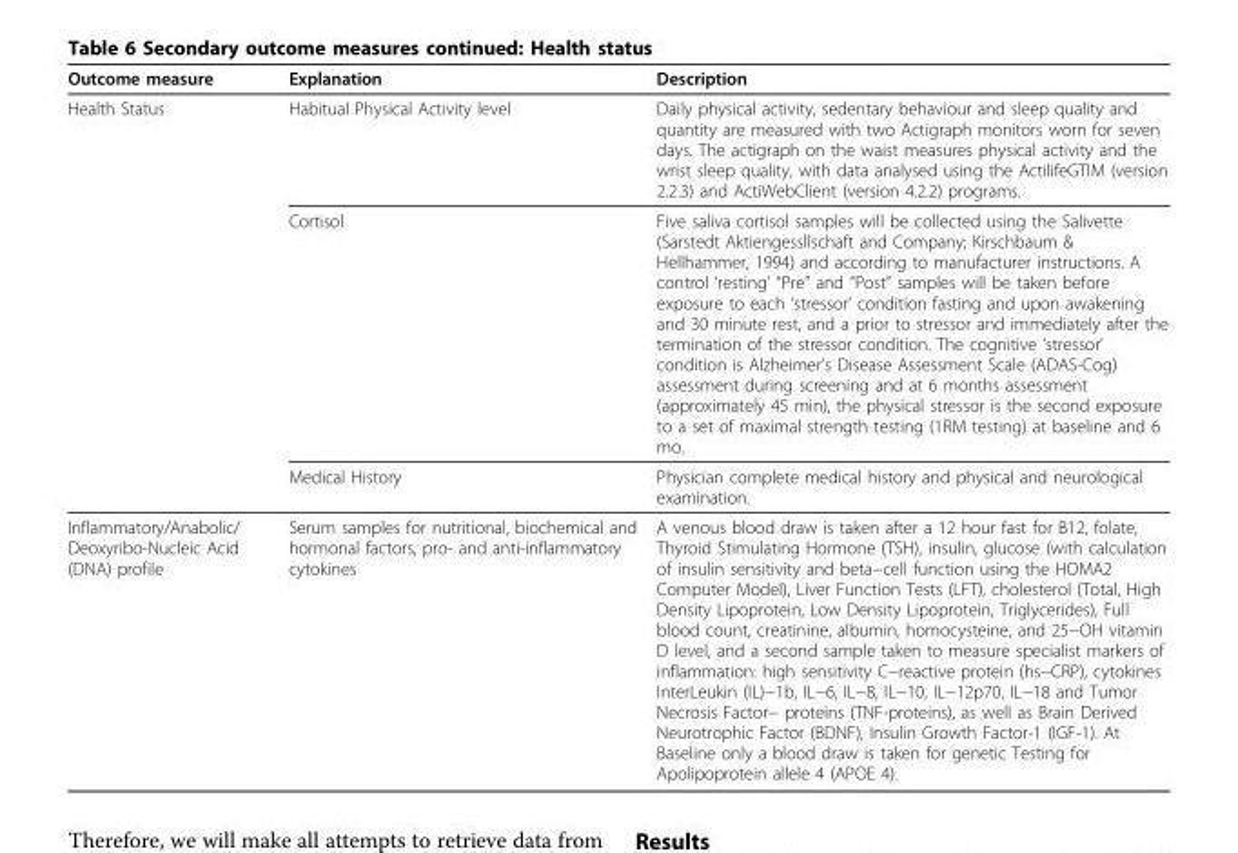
<table><thead><tr><td>Outcome measure</td><td>Explanation</td><td>Description</td></tr></thead><tbody><tr><td rowspan="3">Health Status</td><td>Habitual Physical Activity level</td><td>Daily physical activity, sedentary behaviour and sleep quality and quantity are measured with two Actigraph monitors worn for seven days. The actigraph on the waist measures physical activity and the wrist sleep quality, with data analysed using the ActilifeGTIM (version 2.2.3) and ActiWebClient (version 4.2.2) programs.</td></tr><tr><td>Cortisol</td><td>Five saliva cortisol samples will be collected using the Salivette (Sarstedt Aktiengessllschaft and Company; Kirschbaum &amp; Hellhammer, 1994) and according to manufacturer instructions. A control ‘resting’ “Pre” and “Post” samples will be taken before exposure to each ‘stressor’ condition fasting and upon awakening and 30 minute rest, and a prior to stressor and immediately after the termination of the stressor condition. The cognitive ‘stressor’ condition is Alzheimer’s Disease Assessment Scale (ADAS-Cog) assessment during screening and at 6 months assessment (approximately 45 min), the physical stressor is the second exposure to a set of maximal strength testing (1RM testing) at baseline and 6 mo.</td></tr><tr><td>Medical History</td><td>Physician complete medical history and physical and neurological examination.</td></tr><tr><td>Inflammatory/Anabolic/ Deoxyribo-Nucleic Acid (DNA) profile</td><td>Serum samples for nutritional, biochemical and hormonal factors, pro- and anti-inflammatory cytokines</td><td>A venous blood draw is taken after a 12 hour fast for B12, folate, Thyroid Stimulating Hormone (TSH), insulin, glucose (with calculation of insulin sensitivity and beta−cell function using the HOMA2 Computer Model), Liver Function Tests (LFT), cholesterol (Total, High Density Lipoprotein, Low Density Lipoprotein, Triglycerides), Full blood count, creatinine, albumin, homocysteine, and 25−OH vitamin D level, and a second sample taken to measure specialist markers of inflammation: high sensitivity C−reactive protein (hs−CRP), cytokines InterLeukin (IL)−1b, IL−6, IL−8, IL−10, IL−12p70, IL−18 and Tumor Necrosis Factor− proteins (TNF-proteins), as well as Brain Derived Neurotrophic Factor (BDNF), Insulin Growth Factor-1 (IGF-1). At Baseline only a blood draw is taken for genetic Testing for Apolipoprotein allele 4 (APOE 4).</td></tr></tbody></table>